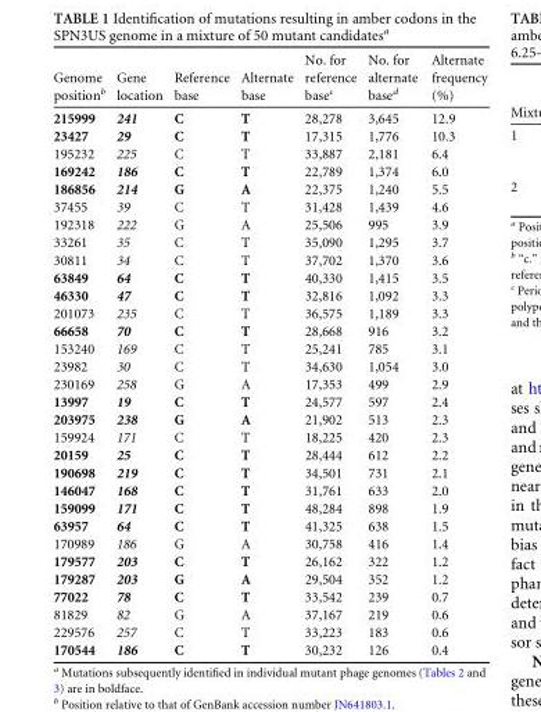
<table><thead><tr><td>Genome position<sup>b</sup></td><td>Gene location</td><td>Reference base</td><td>Alternate base</td><td>No. for reference base<sup>c</sup></td><td>No. for alternate base<sup>d</sup></td><td>Alternate frequency (%)</td></tr></thead><tbody><tr><td>215999</td><td>241</td><td>C</td><td>T</td><td>28,278</td><td>3,645</td><td>12.9</td></tr><tr><td>23427</td><td>29</td><td>C</td><td>T</td><td>17,315</td><td>1,776</td><td>10.3</td></tr><tr><td>195232</td><td>225</td><td>C</td><td>T</td><td>33,887</td><td>2,181</td><td>6.4</td></tr><tr><td>169242</td><td>186</td><td>C</td><td>T</td><td>22,789</td><td>1,374</td><td>6.0</td></tr><tr><td>186856</td><td>214</td><td>G</td><td>A</td><td>22,375</td><td>1,240</td><td>5.5</td></tr><tr><td>37455</td><td>39</td><td>C</td><td>T</td><td>31,428</td><td>1,439</td><td>4.6</td></tr><tr><td>192318</td><td>222</td><td>G</td><td>A</td><td>25,506</td><td>995</td><td>3.9</td></tr><tr><td>33261</td><td>35</td><td>C</td><td>T</td><td>35,090</td><td>1,295</td><td>3.7</td></tr><tr><td>30811</td><td>34</td><td>C</td><td>T</td><td>37,702</td><td>1,370</td><td>3.6</td></tr><tr><td>63849</td><td>64</td><td>C</td><td>T</td><td>40,330</td><td>1,415</td><td>3.5</td></tr><tr><td>46330</td><td>47</td><td>C</td><td>T</td><td>32,816</td><td>1,092</td><td>3.3</td></tr><tr><td>201073</td><td>235</td><td>C</td><td>T</td><td>36,575</td><td>1,189</td><td>3.3</td></tr><tr><td>66658</td><td>70</td><td>C</td><td>T</td><td>28,668</td><td>916</td><td>3.2</td></tr><tr><td>153240</td><td>169</td><td>C</td><td>T</td><td>25,241</td><td>785</td><td>3.1</td></tr><tr><td>23982</td><td>30</td><td>C</td><td>T</td><td>34,630</td><td>1,054</td><td>3.0</td></tr><tr><td>230169</td><td>258</td><td>G</td><td>A</td><td>17,353</td><td>499</td><td>2.9</td></tr><tr><td>13997</td><td>19</td><td>C</td><td>T</td><td>24,577</td><td>597</td><td>2.4</td></tr><tr><td>203975</td><td>238</td><td>G</td><td>A</td><td>21,902</td><td>513</td><td>2.3</td></tr><tr><td>159924</td><td>171</td><td>C</td><td>T</td><td>18,225</td><td>420</td><td>2.3</td></tr><tr><td>20159</td><td>25</td><td>C</td><td>T</td><td>28,444</td><td>612</td><td>2.2</td></tr><tr><td>190698</td><td>219</td><td>C</td><td>T</td><td>34,501</td><td>731</td><td>2.1</td></tr><tr><td>146047</td><td>168</td><td>C</td><td>T</td><td>31,761</td><td>633</td><td>2.0</td></tr><tr><td>159099</td><td>171</td><td>C</td><td>T</td><td>48,284</td><td>898</td><td>1.9</td></tr><tr><td>63957</td><td>64</td><td>C</td><td>T</td><td>41,325</td><td>638</td><td>1.5</td></tr><tr><td>170989</td><td>186</td><td>G</td><td>A</td><td>30,758</td><td>416</td><td>1.4</td></tr><tr><td>179577</td><td>203</td><td>C</td><td>T</td><td>26,162</td><td>322</td><td>1.2</td></tr><tr><td>179287</td><td>203</td><td>G</td><td>A</td><td>29,504</td><td>352</td><td>1.2</td></tr><tr><td>77022</td><td>78</td><td>C</td><td>T</td><td>33,542</td><td>239</td><td>0.7</td></tr><tr><td>81829</td><td>82</td><td>G</td><td>A</td><td>37,167</td><td>219</td><td>0.6</td></tr><tr><td>229576</td><td>257</td><td>C</td><td>T</td><td>33,223</td><td>183</td><td>0.6</td></tr><tr><td>170544</td><td>186</td><td>C</td><td>T</td><td>30,232</td><td>126</td><td>0.4</td></tr></tbody></table>